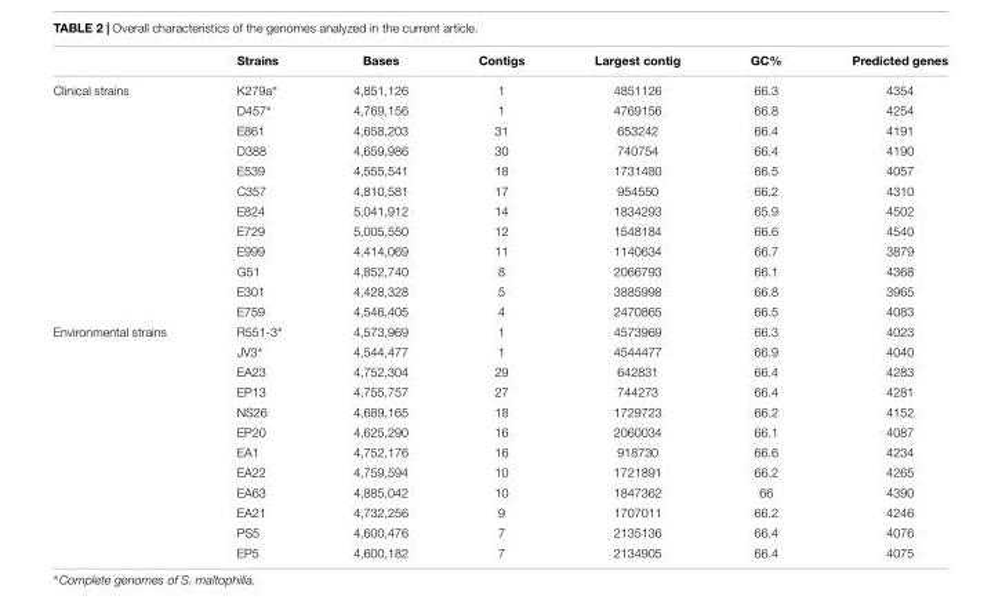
<table><thead><tr><td></td><td>Strains</td><td>Bases</td><td>Contigs</td><td>Largest contig</td><td>GC%</td><td>Predicted genes</td></tr></thead><tbody><tr><td rowspan="12">Clinical strains</td><td>K279a∗</td><td>4,851,126</td><td>1</td><td>4851126</td><td>66.3</td><td>4354</td></tr><tr><td>D457∗</td><td>4,769,156</td><td>1</td><td>4769156</td><td>66.8</td><td>4254</td></tr><tr><td>E861</td><td>4,658,203</td><td>31</td><td>653242</td><td>66.4</td><td>4191</td></tr><tr><td>D388</td><td>4,659,986</td><td>30</td><td>740754</td><td>66.4</td><td>4190</td></tr><tr><td>E539</td><td>4,555,541</td><td>18</td><td>1731480</td><td>66.5</td><td>4057</td></tr><tr><td>C357</td><td>4,810,581</td><td>17</td><td>954550</td><td>66.2</td><td>4310</td></tr><tr><td>E824</td><td>5,041,912</td><td>14</td><td>1834293</td><td>65.9</td><td>4502</td></tr><tr><td>E729</td><td>5,005,550</td><td>12</td><td>1548184</td><td>66.6</td><td>4540</td></tr><tr><td>E999</td><td>4,414,069</td><td>11</td><td>1140634</td><td>66.7</td><td>3879</td></tr><tr><td>G51</td><td>4,852,740</td><td>8</td><td>2066793</td><td>66.1</td><td>4368</td></tr><tr><td>E301</td><td>4,428,328</td><td>5</td><td>3885998</td><td>66.8</td><td>3965</td></tr><tr><td>E759</td><td>4,546,405</td><td>4</td><td>2470865</td><td>66.5</td><td>4083</td></tr><tr><td rowspan="12">Environmental strains</td><td>R551-3∗</td><td>4,573,969</td><td>1</td><td>4573969</td><td>66.3</td><td>4023</td></tr><tr><td>JV3∗</td><td>4,544,477</td><td>1</td><td>4544477</td><td>66.9</td><td>4040</td></tr><tr><td>EA23</td><td>4,752,304</td><td>29</td><td>642831</td><td>66.4</td><td>4283</td></tr><tr><td>EP13</td><td>4,755,757</td><td>27</td><td>744273</td><td>66.4</td><td>4281</td></tr><tr><td>NS26</td><td>4,689,165</td><td>18</td><td>1729723</td><td>66.2</td><td>4152</td></tr><tr><td>EP20</td><td>4,625,290</td><td>16</td><td>2060034</td><td>66.1</td><td>4087</td></tr><tr><td>EA1</td><td>4,752,176</td><td>16</td><td>918730</td><td>66.6</td><td>4234</td></tr><tr><td>EA22</td><td>4,759,594</td><td>10</td><td>1721891</td><td>66.2</td><td>4265</td></tr><tr><td>EA63</td><td>4,885,042</td><td>10</td><td>1847362</td><td>66</td><td>4390</td></tr><tr><td>EA21</td><td>4,732,256</td><td>9</td><td>1707011</td><td>66.2</td><td>4246</td></tr><tr><td>PS5</td><td>4,600,476</td><td>7</td><td>2135136</td><td>66.4</td><td>4076</td></tr><tr><td>EP5</td><td>4,600,182</td><td>7</td><td>2134905</td><td>66.4</td><td>4075</td></tr></tbody></table>